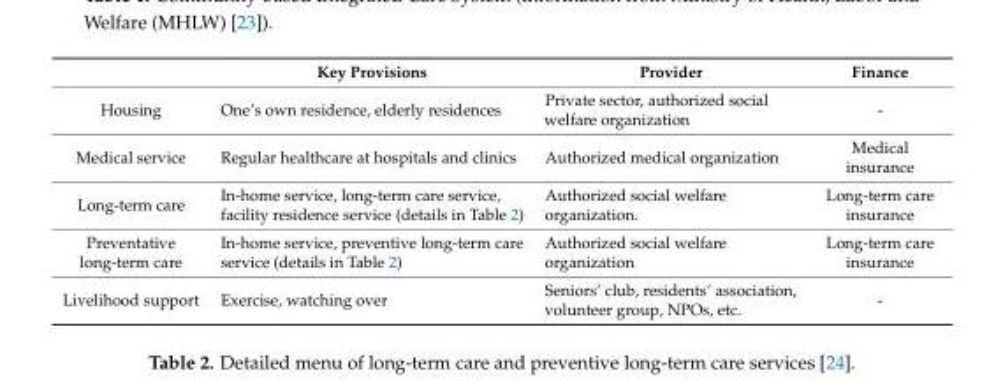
<table><thead><tr><td></td><td>Key Provisions</td><td>Provider</td><td>Finance</td></tr></thead><tbody><tr><td>Housing</td><td>One’s own residence, elderly residences</td><td>Private sector, authorized social welfare organization</td><td>-</td></tr><tr><td>Medical service</td><td>Regular healthcare at hospitals and clinics</td><td>Authorized medical organization</td><td>Medical insurance</td></tr><tr><td>Long-term care</td><td>In-home service, long-term care service, facility residence service (details in Table 2)</td><td>Authorized social welfare organization.</td><td>Long-term care insurance</td></tr><tr><td>Preventative long-term care</td><td>In-home service, preventive long-term care service (details in Table 2)</td><td>Authorized social welfare organization</td><td>Long-term care insurance</td></tr><tr><td>Livelihood support</td><td>Exercise, watching over</td><td>Seniors’ club, residents’ association, volunteer group, NPOs, etc.</td><td>-</td></tr></tbody></table>